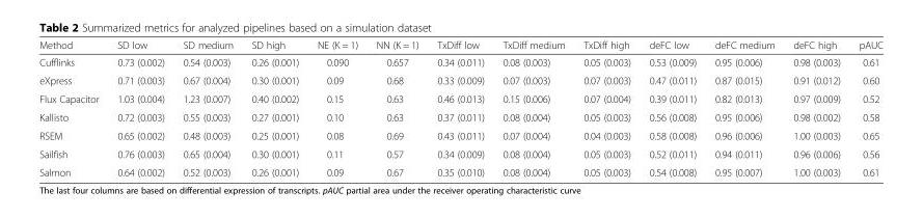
<table><thead><tr><td>Method</td><td>SD low</td><td>SD medium</td><td>SD high</td><td>NE (K = 1)</td><td>NN (K = 1)</td><td>TxDiff low</td><td>TxDiff medium</td><td>TxDiff high</td><td>deFC low</td><td>deFC medium</td><td>deFC high</td><td>pAUC</td></tr></thead><tbody><tr><td>Cufflinks</td><td>0.73 (0.002)</td><td>0.54 (0.003)</td><td>0.26 (0.001)</td><td>0.090</td><td>0.657</td><td>0.34 (0.011)</td><td>0.08 (0.003)</td><td>0.05 (0.003)</td><td>0.53 (0.009)</td><td>0.95 (0.006)</td><td>0.98 (0.003)</td><td>0.61</td></tr><tr><td>eXpress</td><td>0.71 (0.003)</td><td>0.67 (0.004)</td><td>0.30 (0.001)</td><td>0.09</td><td>0.68</td><td>0.33 (0.009)</td><td>0.07 (0.003)</td><td>0.07 (0.003)</td><td>0.47 (0.011)</td><td>0.87 (0.015)</td><td>0.91 (0.012)</td><td>0.60</td></tr><tr><td>Flux Capacitor</td><td>1.03 (0.004)</td><td>1.23 (0.007)</td><td>0.40 (0.002)</td><td>0.15</td><td>0.63</td><td>0.46 (0.013)</td><td>0.15 (0.006)</td><td>0.07 (0.004)</td><td>0.39 (0.011)</td><td>0.82 (0.013)</td><td>0.97 (0.009)</td><td>0.52</td></tr><tr><td>Kallisto</td><td>0.72 (0.003)</td><td>0.55 (0.003)</td><td>0.27 (0.001)</td><td>0.10</td><td>0.63</td><td>0.37 (0.011)</td><td>0.08 (0.004)</td><td>0.05 (0.003)</td><td>0.56 (0.008)</td><td>0.95 (0.006)</td><td>0.98 (0.002)</td><td>0.58</td></tr><tr><td>RSEM</td><td>0.65 (0.002)</td><td>0.48 (0.003)</td><td>0.25 (0.001)</td><td>0.08</td><td>0.69</td><td>0.43 (0.011)</td><td>0.07 (0.004)</td><td>0.04 (0.003)</td><td>0.58 (0.008)</td><td>0.96 (0.006)</td><td>1.00 (0.003)</td><td>0.65</td></tr><tr><td>Sailfish</td><td>0.76 (0.003)</td><td>0.65 (0.004)</td><td>0.30 (0.001)</td><td>0.11</td><td>0.57</td><td>0.34 (0.009)</td><td>0.08 (0.004)</td><td>0.05 (0.003)</td><td>0.52 (0.011)</td><td>0.94 (0.011)</td><td>0.96 (0.006)</td><td>0.56</td></tr><tr><td>Salmon</td><td>0.64 (0.002)</td><td>0.52 (0.003)</td><td>0.26 (0.001)</td><td>0.09</td><td>0.67</td><td>0.35 (0.010)</td><td>0.08 (0.004)</td><td>0.05 (0.003)</td><td>0.54 (0.008)</td><td>0.95 (0.007)</td><td>1.00 (0.003)</td><td>0.61</td></tr></tbody></table>